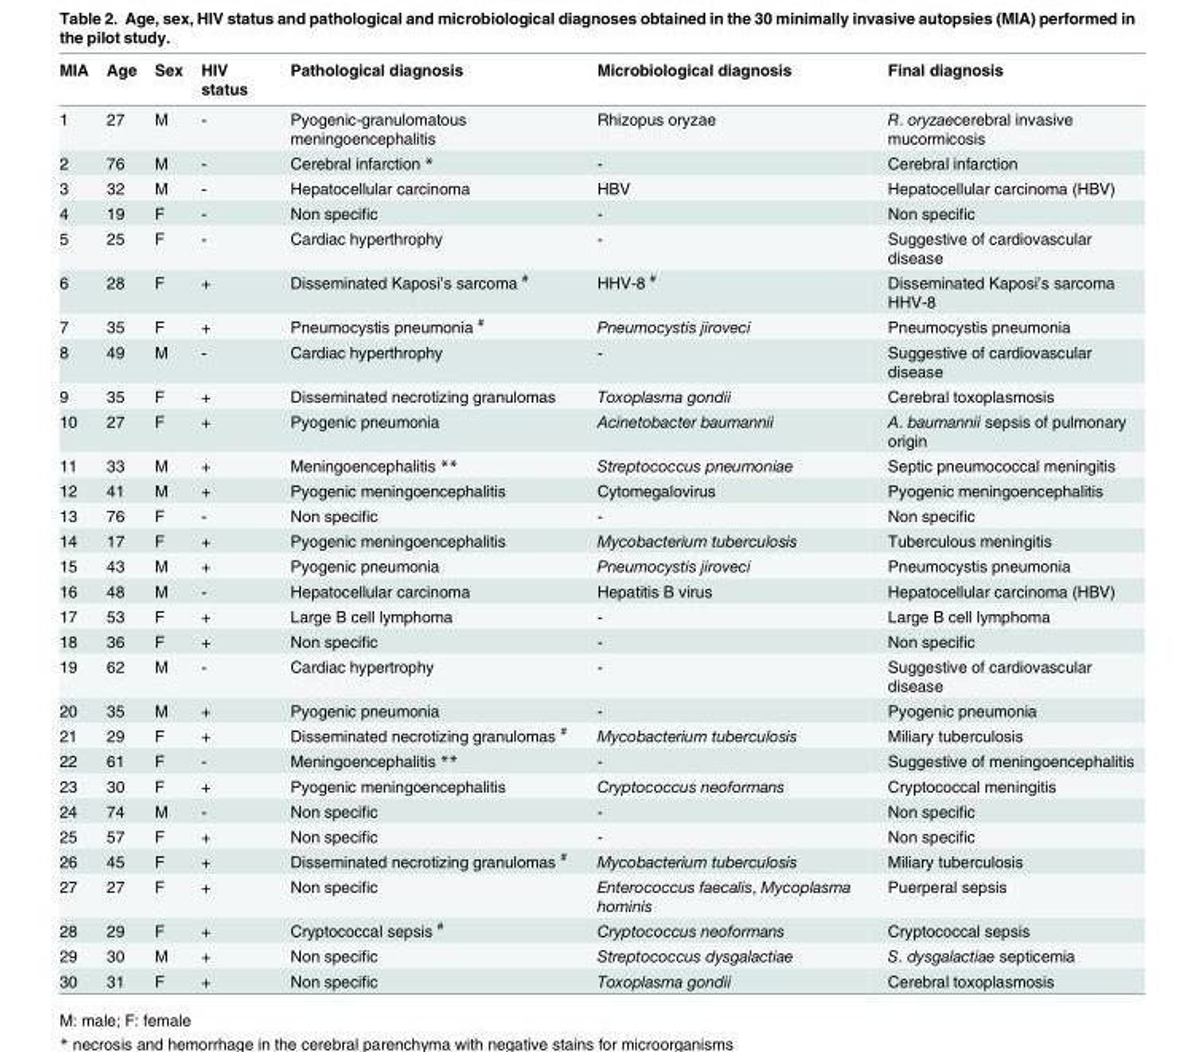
<table><thead><tr><td>MIA</td><td>Age</td><td>Sex</td><td>HIV status</td><td>Pathological diagnosis</td><td>Microbiological diagnosis</td><td>Final diagnosis</td></tr></thead><tbody><tr><td>1</td><td>27</td><td>M</td><td>-</td><td>Pyogenic-granulomatous meningoencephalitis</td><td>Rhizopus oryzae</td><td>R. oryzaecerebral invasive mucormicosis</td></tr><tr><td>2</td><td>76</td><td>M</td><td>-</td><td>Cerebral infarction *</td><td>-</td><td>Cerebral infarction</td></tr><tr><td>3</td><td>32</td><td>M</td><td>-</td><td>Hepatocellular carcinoma</td><td>HBV</td><td>Hepatocellular carcinoma (HBV)</td></tr><tr><td>4</td><td>19</td><td>F</td><td>-</td><td>Non specific</td><td>-</td><td>Non specific</td></tr><tr><td>5</td><td>25</td><td>F</td><td>-</td><td>Cardiac hyperthrophy</td><td>-</td><td>Suggestive of cardiovascular disease</td></tr><tr><td>6</td><td>28</td><td>F</td><td>+</td><td>Disseminated Kaposi’s sarcoma <sup>#</sup></td><td>HHV-8 <sup>#</sup></td><td>Disseminated Kaposi’s sarcoma HHV-8</td></tr><tr><td>7</td><td>35</td><td>F</td><td>+</td><td>Pneumocystis pneumonia <sup>#</sup></td><td>Pneumocystis jiroveci</td><td>Pneumocystis pneumonia</td></tr><tr><td>8</td><td>49</td><td>M</td><td>-</td><td>Cardiac hyperthrophy</td><td>-</td><td>Suggestive of cardiovascular disease</td></tr><tr><td>9</td><td>35</td><td>F</td><td>+</td><td>Disseminated necrotizing granulomas</td><td>Toxoplasma gondii</td><td>Cerebral toxoplasmosis</td></tr><tr><td>10</td><td>27</td><td>F</td><td>+</td><td>Pyogenic pneumonia</td><td>Acinetobacter baumannii</td><td>A. baumannii sepsis of pulmonary origin</td></tr><tr><td>11</td><td>33</td><td>M</td><td>+</td><td>Meningoencephalitis **</td><td>Streptococcus pneumoniae</td><td>Septic pneumococcal meningitis</td></tr><tr><td>12</td><td>41</td><td>M</td><td>+</td><td>Pyogenic meningoencephalitis</td><td>Cytomegalovirus</td><td>Pyogenic meningoencephalitis</td></tr><tr><td>13</td><td>76</td><td>F</td><td>-</td><td>Non specific</td><td>-</td><td>Non specific</td></tr><tr><td>14</td><td>17</td><td>F</td><td>+</td><td>Pyogenic meningoencephalitis</td><td>Mycobacterium tuberculosis</td><td>Tuberculous meningitis</td></tr><tr><td>15</td><td>43</td><td>M</td><td>+</td><td>Pyogenic pneumonia</td><td>Pneumocystis jiroveci</td><td>Pneumocystis pneumonia</td></tr><tr><td>16</td><td>48</td><td>M</td><td>-</td><td>Hepatocellular carcinoma</td><td>Hepatitis B virus</td><td>Hepatocellular carcinoma (HBV)</td></tr><tr><td>17</td><td>53</td><td>F</td><td>+</td><td>Large B cell lymphoma</td><td>-</td><td>Large B cell lymphoma</td></tr><tr><td>18</td><td>36</td><td>F</td><td>+</td><td>Non specific</td><td>-</td><td>Non specific</td></tr><tr><td>19</td><td>62</td><td>M</td><td>-</td><td>Cardiac hypertrophy</td><td>-</td><td>Suggestive of cardiovascular disease</td></tr><tr><td>20</td><td>35</td><td>M</td><td>+</td><td>Pyogenic pneumonia</td><td>-</td><td>Pyogenic pneumonia</td></tr><tr><td>21</td><td>29</td><td>F</td><td>+</td><td>Disseminated necrotizing granulomas <sup>#</sup></td><td>Mycobacterium tuberculosis</td><td>Miliary tuberculosis</td></tr><tr><td>22</td><td>61</td><td>F</td><td>-</td><td>Meningoencephalitis **</td><td>-</td><td>Suggestive of meningoencephalitis</td></tr><tr><td>23</td><td>30</td><td>F</td><td>+</td><td>Pyogenic meningoencephalitis</td><td>Cryptococcus neoformans</td><td>Cryptococcal meningitis</td></tr><tr><td>24</td><td>74</td><td>M</td><td>-</td><td>Non specific</td><td>-</td><td>Non specific</td></tr><tr><td>25</td><td>57</td><td>F</td><td>+</td><td>Non specific</td><td>-</td><td>Non specific</td></tr><tr><td>26</td><td>45</td><td>F</td><td>+</td><td>Disseminated necrotizing granulomas <sup>#</sup></td><td>Mycobacterium tuberculosis</td><td>Miliary tuberculosis</td></tr><tr><td>27</td><td>27</td><td>F</td><td>+</td><td>Non specific</td><td>Enterococcus faecalis, Mycoplasma hominis</td><td>Puerperal sepsis</td></tr><tr><td>28</td><td>29</td><td>F</td><td>+</td><td>Cryptococcal sepsis <sup>#</sup></td><td>Cryptococcus neoformans</td><td>Cryptococcal sepsis</td></tr><tr><td>29</td><td>30</td><td>M</td><td>+</td><td>Non specific</td><td>Streptococcus dysgalactiae</td><td>S. dysgalactiae septicemia</td></tr><tr><td>30</td><td>31</td><td>F</td><td>+</td><td>Non specific</td><td>Toxoplasma gondii</td><td>Cerebral toxoplasmosis</td></tr></tbody></table>